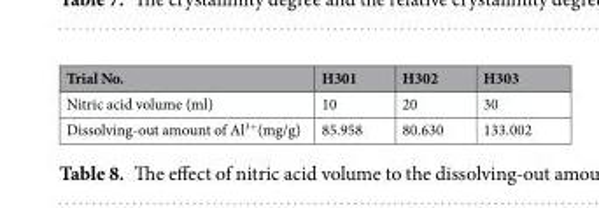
<table><thead><tr><td>Trial No.</td><td>H301</td><td>H302</td><td>H303</td></tr></thead><tbody><tr><td>Nitric acid volume (ml)</td><td>10</td><td>20</td><td>30</td></tr><tr><td>Dissolving-out amount of Al<sup>3+</sup>(mg/g)</td><td>85.958</td><td>80.630</td><td>133.002</td></tr></tbody></table>